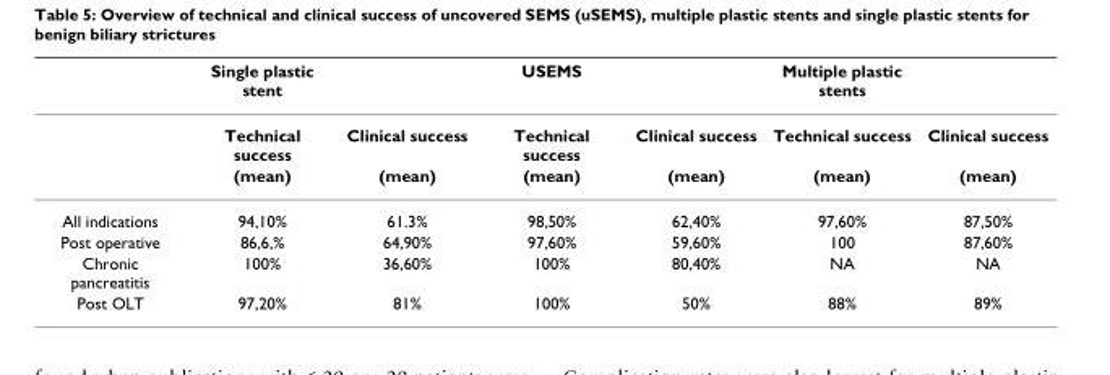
<table><thead><tr><td></td><td>Single plastic stent</td><td></td><td>USEMS</td><td></td><td>Multiple plastic stents</td><td></td></tr></thead><tbody><tr><td></td><td>Technical success</td><td>Clinical success</td><td>Technical success</td><td>Clinical success</td><td>Technical success</td><td>Clinical success</td></tr><tr><td></td><td>(mean)</td><td>(mean)</td><td>(mean)</td><td>(mean)</td><td>(mean)</td><td>(mean)</td></tr><tr><td>All indications</td><td>94,10%</td><td>61.3%</td><td>98,50%</td><td>62,40%</td><td>97,60%</td><td>87,50%</td></tr><tr><td>Post operative</td><td>86,6,%</td><td>64,90%</td><td>97,60%</td><td>59,60%</td><td>100</td><td>87,60%</td></tr><tr><td>Chronic pancreatitis</td><td>100%</td><td>36,60%</td><td>100%</td><td>80,40%</td><td>NA</td><td>NA</td></tr><tr><td>Post OLT</td><td>97,20%</td><td>81%</td><td>100%</td><td>50%</td><td>88%</td><td>89%</td></tr></tbody></table>